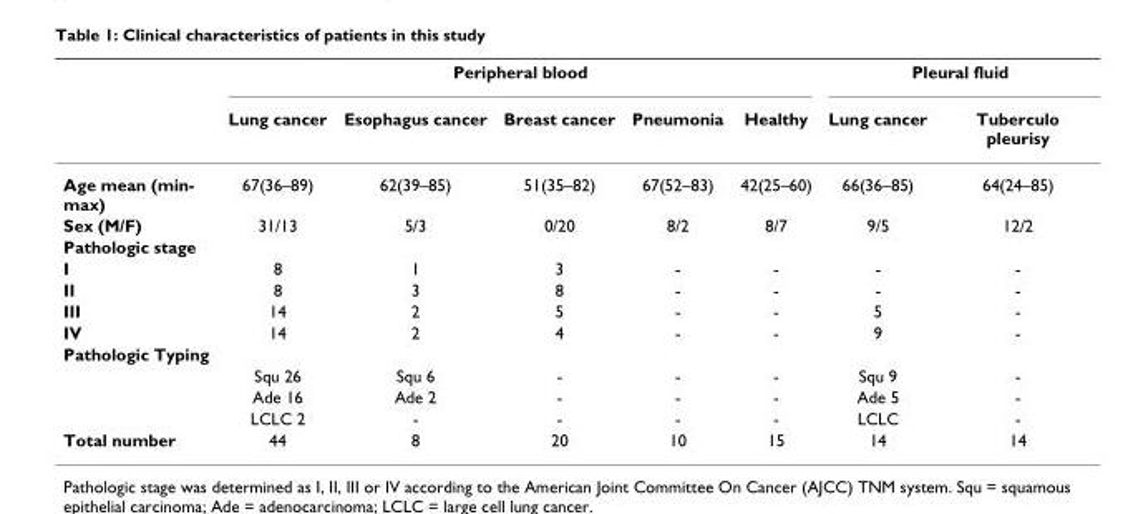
<table><thead><tr><td rowspan="2"></td><td colspan="5">Peripheral blood</td><td colspan="2">Pleural fluid</td></tr><tr><td>Lung cancer</td><td>Esophagus cancer</td><td>Breast cancer</td><td>Pneumonia</td><td>Healthy</td><td>Lung cancer</td><td>Tuberculo pleurisy</td></tr></thead><tbody><tr><td>Age mean (min- max)</td><td>67(36–89)</td><td>62(39–85)</td><td>51(35–82)</td><td>67(52–83)</td><td>42(25–60)</td><td>66(36–85)</td><td>64(24–85)</td></tr><tr><td>Sex (M/F)</td><td>31/13</td><td>5/3</td><td>0/20</td><td>8/2</td><td>8/7</td><td>9/5</td><td>12/2</td></tr><tr><td colspan="8">Pathologic stage</td></tr><tr><td>I</td><td>8</td><td>1</td><td>3</td><td>-</td><td>-</td><td>-</td><td>-</td></tr><tr><td>II</td><td>8</td><td>3</td><td>8</td><td>-</td><td>-</td><td>-</td><td>-</td></tr><tr><td>III</td><td>14</td><td>2</td><td>5</td><td>-</td><td>-</td><td>5</td><td>-</td></tr><tr><td>IV</td><td>14</td><td>2</td><td>4</td><td>-</td><td>-</td><td>9</td><td>-</td></tr><tr><td colspan="8">Pathologic Typing</td></tr><tr><td></td><td>Squ 26</td><td>Squ 6</td><td>-</td><td>-</td><td>-</td><td>Squ 9</td><td>-</td></tr><tr><td></td><td>Ade 16</td><td>Ade 2</td><td>-</td><td>-</td><td>-</td><td>Ade 5</td><td>-</td></tr><tr><td></td><td>LCLC 2</td><td>-</td><td>-</td><td>-</td><td>-</td><td>LCLC</td><td>-</td></tr><tr><td>Total number</td><td>44</td><td>8</td><td>20</td><td>10</td><td>15</td><td>14</td><td>14</td></tr></tbody></table>